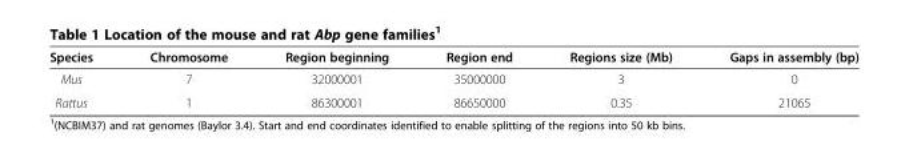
<table><thead><tr><td>Species</td><td>Chromosome</td><td>Region beginning</td><td>Region end</td><td>Regions size (Mb)</td><td>Gaps in assembly (bp)</td></tr></thead><tbody><tr><td>Mus</td><td>7</td><td>32000001</td><td>35000000</td><td>3</td><td>0</td></tr><tr><td>Rattus</td><td>1</td><td>86300001</td><td>86650000</td><td>0.35</td><td>21065</td></tr></tbody></table>